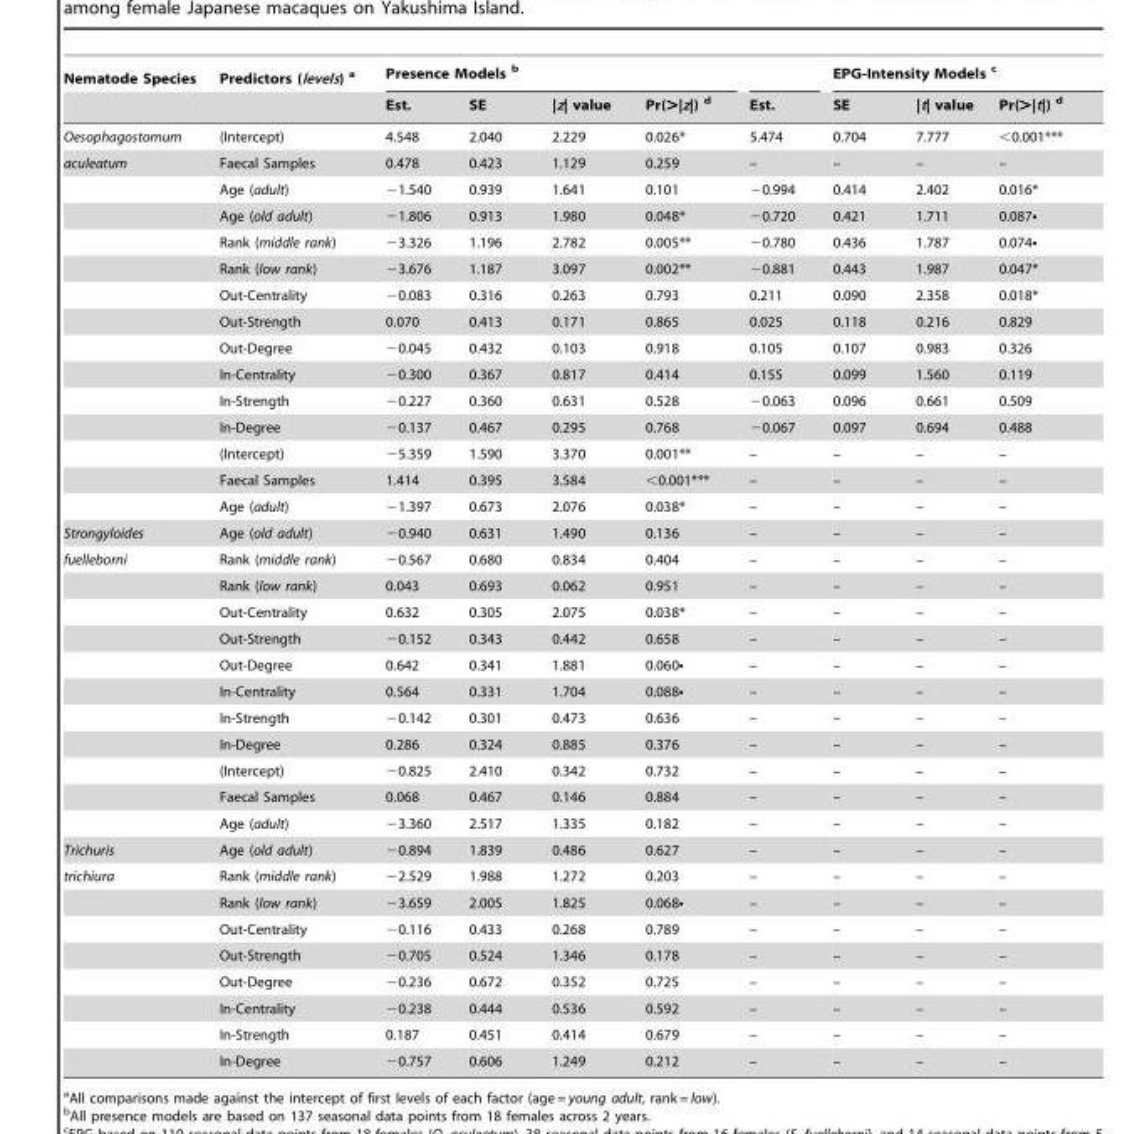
<table><thead><tr><td rowspan="2">Nematode Species</td><td rowspan="2">Predictors (levels) a</td><td colspan="4">Presence Models b</td><td rowspan="2">Est.</td><td colspan="3">EPG-Intensity Models c</td></tr><tr><td>Est.</td><td>SE</td><td>|z| value</td><td>Pr(&gt;|z|) d</td><td>SE</td><td>|t| value</td><td>Pr(&gt;|t|) d</td></tr></thead><tbody><tr><td>Oesophagostomum</td><td>(Intercept)</td><td>4.548</td><td>2.040</td><td>2.229</td><td>0.026*</td><td>5.474</td><td>0.704</td><td>7.777</td><td>&lt;0.001***</td></tr><tr><td rowspan="14">aculeatum</td><td>Faecal Samples</td><td>0.478</td><td>0.423</td><td>1.129</td><td>0.259</td><td>–</td><td>–</td><td>–</td><td>–</td></tr><tr><td>Age (adult)</td><td>−1.540</td><td>0.939</td><td>1.641</td><td>0.101</td><td>−0.994</td><td>0.414</td><td>2.402</td><td>0.016*</td></tr><tr><td>Age (old adult)</td><td>−1.806</td><td>0.913</td><td>1.980</td><td>0.048*</td><td>−0.720</td><td>0.421</td><td>1.711</td><td>0.087•</td></tr><tr><td>Rank (middle rank)</td><td>−3.326</td><td>1.196</td><td>2.782</td><td>0.005**</td><td>−0.780</td><td>0.436</td><td>1.787</td><td>0.074•</td></tr><tr><td>Rank (low rank)</td><td>−3.676</td><td>1.187</td><td>3.097</td><td>0.002**</td><td>−0.881</td><td>0.443</td><td>1.987</td><td>0.047*</td></tr><tr><td>Out-Centrality</td><td>−0.083</td><td>0.316</td><td>0.263</td><td>0.793</td><td>0.211</td><td>0.090</td><td>2.358</td><td>0.018*</td></tr><tr><td>Out-Strength</td><td>0.070</td><td>0.413</td><td>0.171</td><td>0.865</td><td>0.025</td><td>0.118</td><td>0.216</td><td>0.829</td></tr><tr><td>Out-Degree</td><td>−0.045</td><td>0.432</td><td>0.103</td><td>0.918</td><td>0.105</td><td>0.107</td><td>0.983</td><td>0.326</td></tr><tr><td>In-Centrality</td><td>−0.300</td><td>0.367</td><td>0.817</td><td>0.414</td><td>0.155</td><td>0.099</td><td>1.560</td><td>0.119</td></tr><tr><td>In-Strength</td><td>−0.227</td><td>0.360</td><td>0.631</td><td>0.528</td><td>−0.063</td><td>0.096</td><td>0.661</td><td>0.509</td></tr><tr><td>In-Degree</td><td>−0.137</td><td>0.467</td><td>0.295</td><td>0.768</td><td>−0.067</td><td>0.097</td><td>0.694</td><td>0.488</td></tr><tr><td>(Intercept)</td><td>−5.359</td><td>1.590</td><td>3.370</td><td>0.001**</td><td>–</td><td>–</td><td>–</td><td>–</td></tr><tr><td>Faecal Samples</td><td>1.414</td><td>0.395</td><td>3.584</td><td>&lt;0.001***</td><td>–</td><td>–</td><td>–</td><td>–</td></tr><tr><td>Age (adult)</td><td>−1.397</td><td>0.673</td><td>2.076</td><td>0.038*</td><td>–</td><td>–</td><td>–</td><td>–</td></tr><tr><td>Strongyloides</td><td>Age (old adult)</td><td>−0.940</td><td>0.631</td><td>1.490</td><td>0.136</td><td>–</td><td>–</td><td>–</td><td>–</td></tr><tr><td rowspan="11">fuelleborni</td><td>Rank (middle rank)</td><td>−0.567</td><td>0.680</td><td>0.834</td><td>0.404</td><td>–</td><td>–</td><td>–</td><td>–</td></tr><tr><td>Rank (low rank)</td><td>0.043</td><td>0.693</td><td>0.062</td><td>0.951</td><td>–</td><td>–</td><td>–</td><td>–</td></tr><tr><td>Out-Centrality</td><td>0.632</td><td>0.305</td><td>2.075</td><td>0.038*</td><td>–</td><td>–</td><td>–</td><td>–</td></tr><tr><td>Out-Strength</td><td>−0.152</td><td>0.343</td><td>0.442</td><td>0.658</td><td>–</td><td>–</td><td>–</td><td>–</td></tr><tr><td>Out-Degree</td><td>0.642</td><td>0.341</td><td>1.881</td><td>0.060•</td><td>–</td><td>–</td><td>–</td><td>–</td></tr><tr><td>In-Centrality</td><td>0.564</td><td>0.331</td><td>1.704</td><td>0.088•</td><td>–</td><td>–</td><td>–</td><td>–</td></tr><tr><td>In-Strength</td><td>−0.142</td><td>0.301</td><td>0.473</td><td>0.636</td><td>–</td><td>–</td><td>–</td><td>–</td></tr><tr><td>In-Degree</td><td>0.286</td><td>0.324</td><td>0.885</td><td>0.376</td><td>–</td><td>–</td><td>–</td><td>–</td></tr><tr><td>(Intercept)</td><td>−0.825</td><td>2.410</td><td>0.342</td><td>0.732</td><td>–</td><td>–</td><td>–</td><td>–</td></tr><tr><td>Faecal Samples</td><td>0.068</td><td>0.467</td><td>0.146</td><td>0.884</td><td>–</td><td>–</td><td>–</td><td>–</td></tr><tr><td>Age (adult)</td><td>−3.360</td><td>2.517</td><td>1.335</td><td>0.182</td><td>–</td><td>–</td><td>–</td><td>–</td></tr><tr><td>Trichuris</td><td>Age (old adult)</td><td>−0.894</td><td>1.839</td><td>0.486</td><td>0.627</td><td>–</td><td>–</td><td>–</td><td>–</td></tr><tr><td rowspan="8">trichiura</td><td>Rank (middle rank)</td><td>−2.529</td><td>1.988</td><td>1.272</td><td>0.203</td><td>–</td><td>–</td><td>–</td><td>–</td></tr><tr><td>Rank (low rank)</td><td>−3.659</td><td>2.005</td><td>1.825</td><td>0.068•</td><td>–</td><td>–</td><td>–</td><td>–</td></tr><tr><td>Out-Centrality</td><td>−0.116</td><td>0.433</td><td>0.268</td><td>0.789</td><td>–</td><td>–</td><td>–</td><td>–</td></tr><tr><td>Out-Strength</td><td>−0.705</td><td>0.524</td><td>1.346</td><td>0.178</td><td>–</td><td>–</td><td>–</td><td>–</td></tr><tr><td>Out-Degree</td><td>−0.236</td><td>0.672</td><td>0.352</td><td>0.725</td><td>–</td><td>–</td><td>–</td><td>–</td></tr><tr><td>In-Centrality</td><td>−0.238</td><td>0.444</td><td>0.536</td><td>0.592</td><td>–</td><td>–</td><td>–</td><td>–</td></tr><tr><td>In-Strength</td><td>0.187</td><td>0.451</td><td>0.414</td><td>0.679</td><td>–</td><td>–</td><td>–</td><td>–</td></tr><tr><td>In-Degree</td><td>−0.757</td><td>0.606</td><td>1.249</td><td>0.212</td><td>–</td><td>–</td><td>–</td><td>–</td></tr></tbody></table>